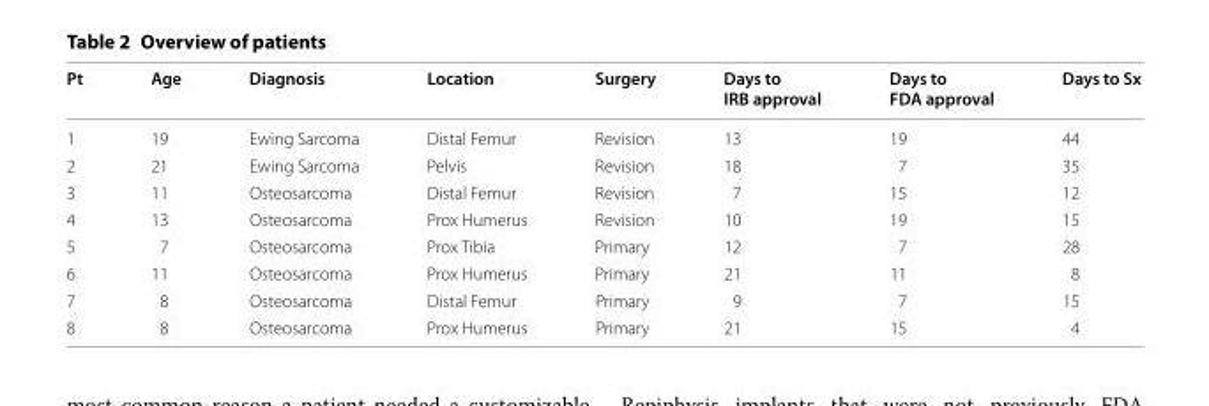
<table><thead><tr><td>Pt</td><td>Age</td><td>Diagnosis</td><td>Location</td><td>Surgery</td><td>Days to IRB approval</td><td>Days to FDA approval</td><td>Days to Sx</td></tr></thead><tbody><tr><td>1</td><td>19</td><td>Ewing Sarcoma</td><td>Distal Femur</td><td>Revision</td><td>13</td><td>19</td><td>44</td></tr><tr><td>2</td><td>21</td><td>Ewing Sarcoma</td><td>Pelvis</td><td>Revision</td><td>18</td><td>7</td><td>35</td></tr><tr><td>3</td><td>11</td><td>Osteosarcoma</td><td>Distal Femur</td><td>Revision</td><td>7</td><td>15</td><td>12</td></tr><tr><td>4</td><td>13</td><td>Osteosarcoma</td><td>Prox Humerus</td><td>Revision</td><td>10</td><td>19</td><td>15</td></tr><tr><td>5</td><td>7</td><td>Osteosarcoma</td><td>Prox Tibia</td><td>Primary</td><td>12</td><td>7</td><td>28</td></tr><tr><td>6</td><td>11</td><td>Osteosarcoma</td><td>Prox Humerus</td><td>Primary</td><td>21</td><td>11</td><td>8</td></tr><tr><td>7</td><td>8</td><td>Osteosarcoma</td><td>Distal Femur</td><td>Primary</td><td>9</td><td>7</td><td>15</td></tr><tr><td>8</td><td>8</td><td>Osteosarcoma</td><td>Prox Humerus</td><td>Primary</td><td>21</td><td>15</td><td>4</td></tr></tbody></table>